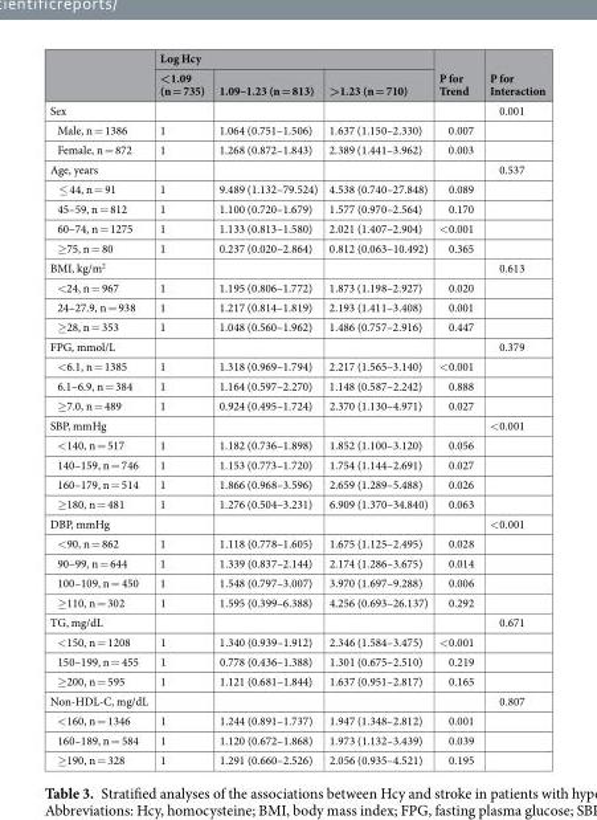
<table><thead><tr><td rowspan="2"></td><td colspan="3">Log Hcy</td><td rowspan="2">P for Trend</td><td rowspan="2">P for Interaction</td></tr><tr><td>&lt;1.09 (n = 735)</td><td>1.09–1.23 (n = 813)</td><td>&gt;1.23 (n = 710)</td></tr></thead><tbody><tr><td>Sex</td><td></td><td></td><td></td><td></td><td>0.001</td></tr><tr><td>Male, n = 1386</td><td>1</td><td>1.064 (0.751–1.506)</td><td>1.637 (1.150–2.330)</td><td>0.007</td><td></td></tr><tr><td>Female, n = 872</td><td>1</td><td>1.268 (0.872–1.843)</td><td>2.389 (1.441–3.962)</td><td>0.003</td><td></td></tr><tr><td>Age, years</td><td></td><td></td><td></td><td></td><td>0.537</td></tr><tr><td>≤ 44, n = 91</td><td>1</td><td>9.489 (1.132–79.524)</td><td>4.538 (0.740–27.848)</td><td>0.089</td><td></td></tr><tr><td>45–59, n = 812</td><td>1</td><td>1.100 (0.720–1.679)</td><td>1.577 (0.970–2.564)</td><td>0.170</td><td></td></tr><tr><td>60–74, n = 1275</td><td>1</td><td>1.133 (0.813–1.580)</td><td>2.021 (1.407–2.904)</td><td>&lt;0.001</td><td></td></tr><tr><td>≥75, n = 80</td><td>1</td><td>0.237 (0.020–2.864)</td><td>0.812 (0.063–10.492)</td><td>0.365</td><td></td></tr><tr><td>BMI, kg/m<sup>2</sup></td><td></td><td></td><td></td><td></td><td>0.613</td></tr><tr><td>&lt;24, n = 967</td><td>1</td><td>1.195 (0.806–1.772)</td><td>1.873 (1.198–2.927)</td><td>0.020</td><td></td></tr><tr><td>24–27.9, n = 938</td><td>1</td><td>1.217 (0.814–1.819)</td><td>2.193 (1.411–3.408)</td><td>0.001</td><td></td></tr><tr><td>≥28, n = 353</td><td>1</td><td>1.048 (0.560–1.962)</td><td>1.486 (0.757–2.916)</td><td>0.447</td><td></td></tr><tr><td>FPG, mmol/L</td><td></td><td></td><td></td><td></td><td>0.379</td></tr><tr><td>&lt;6.1, n = 1385</td><td>1</td><td>1.318 (0.969–1.794)</td><td>2.217 (1.565–3.140)</td><td>&lt;0.001</td><td></td></tr><tr><td>6.1–6.9, n = 384</td><td>1</td><td>1.164 (0.597–2.270)</td><td>1.148 (0.587–2.242)</td><td>0.888</td><td></td></tr><tr><td>≥7.0, n = 489</td><td>1</td><td>0.924 (0.495–1.724)</td><td>2.370 (1.130–4.971)</td><td>0.027</td><td></td></tr><tr><td>SBP, mmHg</td><td></td><td></td><td></td><td></td><td>&lt;0.001</td></tr><tr><td>&lt;140, n = 517</td><td>1</td><td>1.182 (0.736–1.898)</td><td>1.852 (1.100–3.120)</td><td>0.056</td><td></td></tr><tr><td>140–159, n = 746</td><td>1</td><td>1.153 (0.773–1.720)</td><td>1.754 (1.144–2.691)</td><td>0.027</td><td></td></tr><tr><td>160–179, n = 514</td><td>1</td><td>1.866 (0.968–3.596)</td><td>2.659 (1.289–5.488)</td><td>0.026</td><td></td></tr><tr><td>≥180, n = 481</td><td>1</td><td>1.276 (0.504–3.231)</td><td>6.909 (1.370–34.840)</td><td>0.063</td><td></td></tr><tr><td>DBP, mmHg</td><td></td><td></td><td></td><td></td><td>&lt;0.001</td></tr><tr><td>&lt;90, n = 862</td><td>1</td><td>1.118 (0.778–1.605)</td><td>1.675 (1.125–2.495)</td><td>0.028</td><td></td></tr><tr><td>90–99, n = 644</td><td>1</td><td>1.339 (0.837–2.144)</td><td>2.174 (1.286–3.675)</td><td>0.014</td><td></td></tr><tr><td>100–109, n = 450</td><td>1</td><td>1.548 (0.797–3.007)</td><td>3.970 (1.697–9.288)</td><td>0.006</td><td></td></tr><tr><td>≥110, n = 302</td><td>1</td><td>1.595 (0.399–6.388)</td><td>4.256 (0.693–26.137)</td><td>0.292</td><td></td></tr><tr><td>TG, mg/dL</td><td></td><td></td><td></td><td></td><td>0.671</td></tr><tr><td>&lt;150, n = 1208</td><td>1</td><td>1.340 (0.939–1.912)</td><td>2.346 (1.584–3.475)</td><td>&lt;0.001</td><td></td></tr><tr><td>150–199, n = 455</td><td>1</td><td>0.778 (0.436–1.388)</td><td>1.301 (0.675–2.510)</td><td>0.219</td><td></td></tr><tr><td>≥200, n = 595</td><td>1</td><td>1.121 (0.681–1.844)</td><td>1.637 (0.951–2.817)</td><td>0.165</td><td></td></tr><tr><td>Non-HDL-C, mg/dL</td><td></td><td></td><td></td><td></td><td>0.807</td></tr><tr><td>&lt;160, n = 1346</td><td>1</td><td>1.244 (0.891–1.737)</td><td>1.947 (1.348–2.812)</td><td>0.001</td><td></td></tr><tr><td>160–189, n = 584</td><td>1</td><td>1.120 (0.672–1.868)</td><td>1.973 (1.132–3.439)</td><td>0.039</td><td></td></tr><tr><td>≥190, n = 328</td><td>1</td><td>1.291 (0.660–2.526)</td><td>2.056 (0.935–4.521)</td><td>0.195</td><td></td></tr></tbody></table>